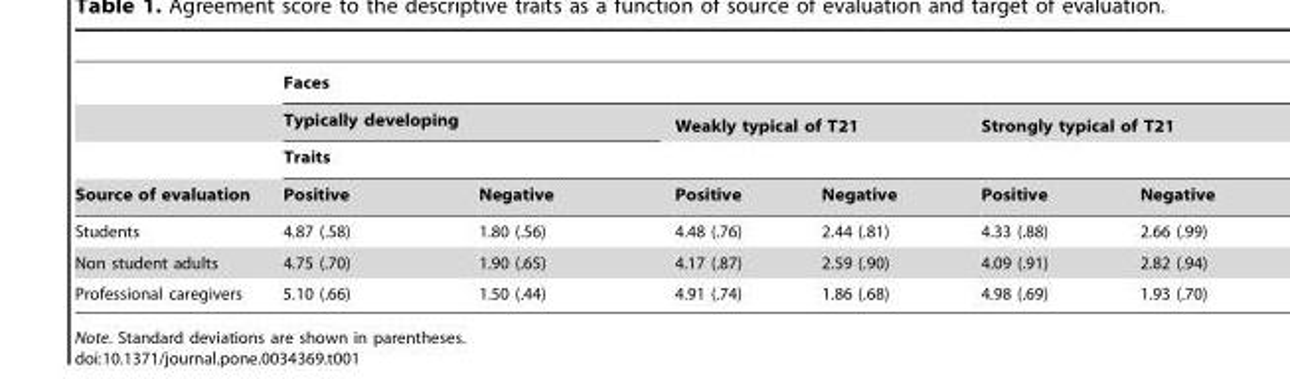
<table><thead><tr><td rowspan="4">Source of evaluation</td><td colspan="6">Faces</td></tr><tr><td colspan="2">Typically developing</td><td colspan="2">Weakly typical of T21</td><td colspan="2">Strongly typical of T21</td></tr><tr><td colspan="6">Traits</td></tr><tr><td>Positive</td><td>Negative</td><td>Positive</td><td>Negative</td><td>Positive</td><td>Negative</td></tr></thead><tbody><tr><td>Students</td><td>4.87 (.58)</td><td>1.80 (.56)</td><td>4.48 (.76)</td><td>2.44 (.81)</td><td>4.33 (.88)</td><td>2.66 (.99)</td></tr><tr><td>Non student adults</td><td>4.75 (.70)</td><td>1.90 (.65)</td><td>4.17 (.87)</td><td>2.59 (.90)</td><td>4.09 (.91)</td><td>2.82 (.94)</td></tr><tr><td>Professional caregivers</td><td>5.10 (.66)</td><td>1.50 (.44)</td><td>4.91 (.74)</td><td>1.86 (.68)</td><td>4.98 (.69)</td><td>1.93 (.70)</td></tr></tbody></table>